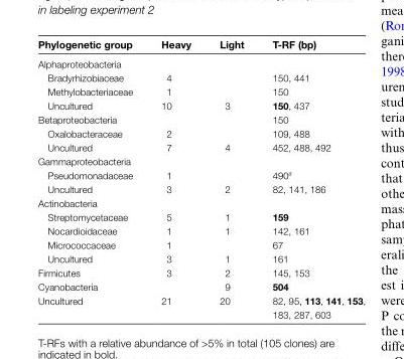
<table><thead><tr><td>Phylogenetic group</td><td>Heavy</td><td>Light</td><td>T-RF (bp)</td></tr></thead><tbody><tr><td colspan="4">Alphaproteobacteria</td></tr><tr><td>Bradyrhizobiaceae</td><td>4</td><td></td><td>150, 441</td></tr><tr><td>Methylobacteriaceae</td><td>1</td><td></td><td>150</td></tr><tr><td>Uncultured</td><td>10</td><td>3</td><td>150, 437</td></tr><tr><td>Betaproteobacteria</td><td></td><td></td><td>150</td></tr><tr><td>Oxalobacteraceae</td><td>2</td><td></td><td>109, 488</td></tr><tr><td>Uncultured</td><td>7</td><td>4</td><td>452, 488, 492</td></tr><tr><td colspan="4">Gammaproteobacteria</td></tr><tr><td>Pseudomonadaceae</td><td>1</td><td></td><td>490<sup>a</sup></td></tr><tr><td>Uncultured</td><td>3</td><td>2</td><td>82, 141, 186</td></tr><tr><td colspan="4">Actinobacteria</td></tr><tr><td>Streptomycetaceae</td><td>5</td><td>1</td><td>159</td></tr><tr><td>Nocardioidaceae</td><td>1</td><td>1</td><td>142, 161</td></tr><tr><td>Micrococcaceae</td><td>1</td><td></td><td>67</td></tr><tr><td>Uncultured</td><td>3</td><td>1</td><td>161</td></tr><tr><td>Firmicutes</td><td>3</td><td>2</td><td>145, 153</td></tr><tr><td>Cyanobacteria</td><td></td><td>9</td><td>504</td></tr><tr><td>Uncultured</td><td>21</td><td>20</td><td>82, 95, 113, 141, 153, 183, 287, 603</td></tr></tbody></table>